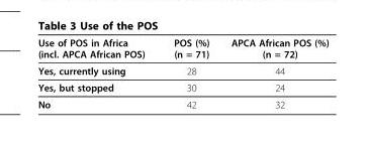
<table><thead><tr><td>Use of POS in Africa (incl. APCA African POS)</td><td>POS (%) (n = 71)</td><td>APCA African POS (%) (n = 72)</td></tr></thead><tbody><tr><td>Yes, currently using</td><td>28</td><td>44</td></tr><tr><td>Yes, but stopped</td><td>30</td><td>24</td></tr><tr><td>No</td><td>42</td><td>32</td></tr></tbody></table>